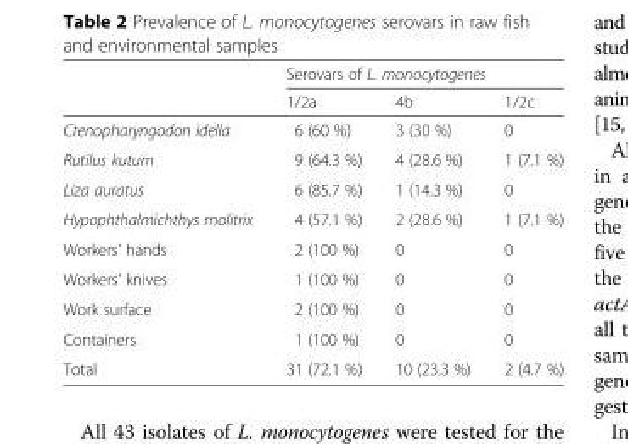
<table><thead><tr><td rowspan="2"></td><td colspan="3">Serovars of L. monocytogenes</td></tr><tr><td>1/2a</td><td>4b</td><td>1/2c</td></tr></thead><tbody><tr><td>Ctenopharyngodon idella</td><td>6 (60 %)</td><td>3 (30 %)</td><td>0</td></tr><tr><td>Rutilus kutum</td><td>9 (64.3 %)</td><td>4 (28.6 %)</td><td>1 (7.1 %)</td></tr><tr><td>Liza auratus</td><td>6 (85.7 %)</td><td>1 (14.3 %)</td><td>0</td></tr><tr><td>Hypophthalmichthys molitrix</td><td>4 (57.1 %)</td><td>2 (28.6 %)</td><td>1 (7.1 %)</td></tr><tr><td>Workers’ hands</td><td>2 (100 %)</td><td>0</td><td>0</td></tr><tr><td>Workers’ knives</td><td>1 (100 %)</td><td>0</td><td>0</td></tr><tr><td>Work surface</td><td>2 (100 %)</td><td>0</td><td>0</td></tr><tr><td>Containers</td><td>1 (100 %)</td><td>0</td><td>0</td></tr><tr><td>Total</td><td>31 (72.1 %)</td><td>10 (23.3 %)</td><td>2 (4.7 %)</td></tr></tbody></table>